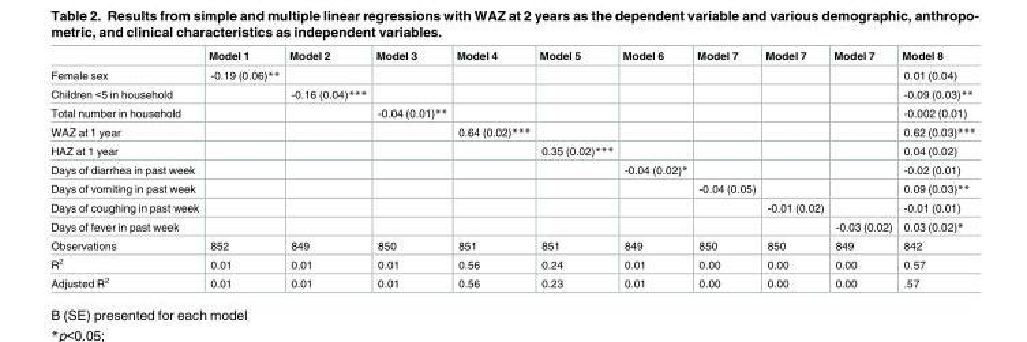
<table><thead><tr><td></td><td>Model 1</td><td>Model 2</td><td>Model 3</td><td>Model 4</td><td>Model 5</td><td>Model 6</td><td>Model 7</td><td>Model 7</td><td>Model 7</td><td>Model 8</td></tr></thead><tbody><tr><td>Female sex</td><td>-0.19 (0.06)**</td><td></td><td></td><td></td><td></td><td></td><td></td><td></td><td></td><td>0.01 (0.04)</td></tr><tr><td>Children &lt;5 in household</td><td></td><td>-0.16 (0.04)***</td><td></td><td></td><td></td><td></td><td></td><td></td><td></td><td>-0.09 (0.03)**</td></tr><tr><td>Total number in household</td><td></td><td></td><td>-0.04 (0.01)**</td><td></td><td></td><td></td><td></td><td></td><td></td><td>-0.002 (0.01)</td></tr><tr><td>WAZ at 1 year</td><td></td><td></td><td></td><td>0.64 (0.02)***</td><td></td><td></td><td></td><td></td><td></td><td>0.62 (0.03)***</td></tr><tr><td>HAZ at 1 year</td><td></td><td></td><td></td><td></td><td>0.35 (0.02)***</td><td></td><td></td><td></td><td></td><td>0.04 (0.02)</td></tr><tr><td>Days of diarrhea in past week</td><td></td><td></td><td></td><td></td><td></td><td>-0.04 (0.02)*</td><td></td><td></td><td></td><td>-0.02 (0.01)</td></tr><tr><td>Days of vomiting in past week</td><td></td><td></td><td></td><td></td><td></td><td></td><td>-0.04 (0.05)</td><td></td><td></td><td>0.09 (0.03)**</td></tr><tr><td>Days of coughing in past week</td><td></td><td></td><td></td><td></td><td></td><td></td><td></td><td>-0.01 (0.02)</td><td></td><td>-0.01 (0.01)</td></tr><tr><td>Days of fever in past week</td><td></td><td></td><td></td><td></td><td></td><td></td><td></td><td></td><td>-0.03 (0.02)</td><td>0.03 (0.02)*</td></tr><tr><td>Observations</td><td>852</td><td>849</td><td>850</td><td>851</td><td>851</td><td>849</td><td>850</td><td>850</td><td>849</td><td>842</td></tr><tr><td>R<sup>2</sup></td><td>0.01</td><td>0.01</td><td>0.01</td><td>0.56</td><td>0.24</td><td>0.01</td><td>0.00</td><td>0.00</td><td>0.00</td><td>0.57</td></tr><tr><td>Adjusted R<sup>2</sup></td><td>0.01</td><td>0.01</td><td>0.01</td><td>0.56</td><td>0.23</td><td>0.01</td><td>0.00</td><td>0.00</td><td>0.00</td><td>.57</td></tr></tbody></table>